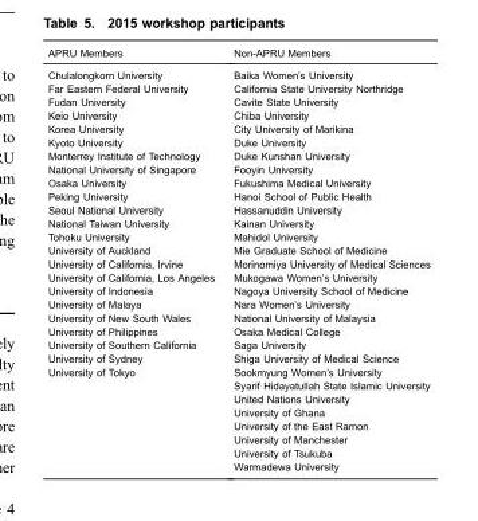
<table><thead><tr><td>APRU Members</td><td>Non-APRU Members</td></tr></thead><tbody><tr><td>Chulalongkorn University</td><td>Baika Women’s University</td></tr><tr><td>Far Eastern Federal University</td><td>California State University Northridge</td></tr><tr><td>Fudan University</td><td>Cavite State University</td></tr><tr><td>Keio University</td><td>Chiba University</td></tr><tr><td>Korea University</td><td>City University of Marikina</td></tr><tr><td>Kyoto University</td><td>Duke University</td></tr><tr><td>Monterrey Institute of Technology</td><td>Duke Kunshan University</td></tr><tr><td>National University of Singapore</td><td>Fooyin University</td></tr><tr><td>Osaka University</td><td>Fukushima Medical University</td></tr><tr><td>Peking University</td><td>Hanoi School of Public Health</td></tr><tr><td>Seoul National University</td><td>Hassanuddin University</td></tr><tr><td>National Taiwan University</td><td>Kainan University</td></tr><tr><td>Tohoku University</td><td>Mahidol University</td></tr><tr><td>University of Auckland</td><td>Mie Graduate School of Medicine</td></tr><tr><td>University of California, Irvine</td><td>Morinomiya University of Medical Sciences</td></tr><tr><td>University of California, Los Angeles</td><td>Mukogawa Women’s University</td></tr><tr><td>University of Indonesia</td><td>Nagoya University School of Medicine</td></tr><tr><td>University of Malaya</td><td>Nara Women’s University</td></tr><tr><td>University of New South Wales</td><td>National University of Malaysia</td></tr><tr><td>University of Philippines</td><td>Osaka Medical College</td></tr><tr><td>University of Southern California</td><td>Saga University</td></tr><tr><td>University of Sydney</td><td>Shiga University of Medical Science</td></tr><tr><td rowspan="8">University of Tokyo</td><td>Sookmyung Women’s University</td></tr><tr><td>Syarif Hidayatullah State Islamic University</td></tr><tr><td>United Nations University</td></tr><tr><td>University of Ghana</td></tr><tr><td>University of the East Ramon</td></tr><tr><td>University of Manchester</td></tr><tr><td>University of Tsukuba</td></tr><tr><td>Warmadewa University</td></tr></tbody></table>